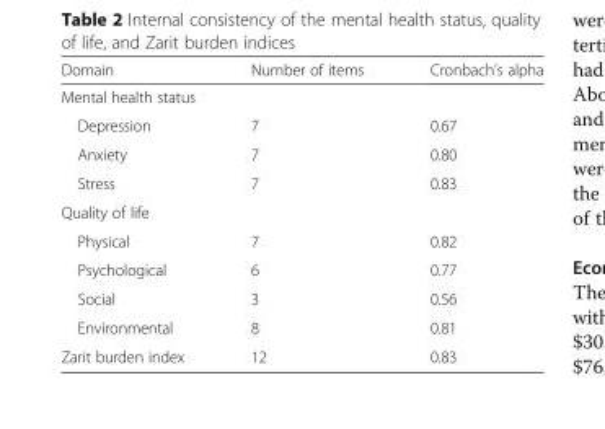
<table><thead><tr><td>Domain</td><td>Number of items</td><td>Cronbach’s alpha</td></tr></thead><tbody><tr><td colspan="3">Mental health status</td></tr><tr><td>Depression</td><td>7</td><td>0.67</td></tr><tr><td>Anxiety</td><td>7</td><td>0.80</td></tr><tr><td>Stress</td><td>7</td><td>0.83</td></tr><tr><td colspan="3">Quality of life</td></tr><tr><td>Physical</td><td>7</td><td>0.82</td></tr><tr><td>Psychological</td><td>6</td><td>0.77</td></tr><tr><td>Social</td><td>3</td><td>0.56</td></tr><tr><td>Environmental</td><td>8</td><td>0.81</td></tr><tr><td>Zarit burden index</td><td>12</td><td>0.83</td></tr></tbody></table>